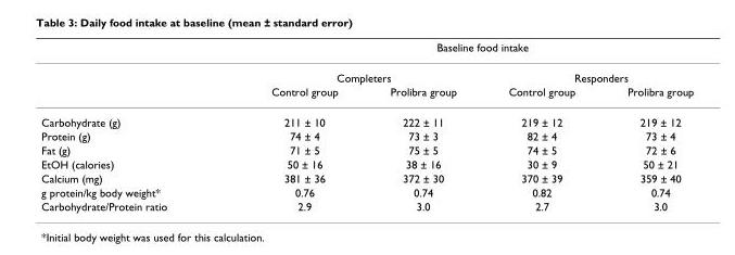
<table><thead><tr><td rowspan="3"></td><td colspan="4">Baseline food intake</td></tr><tr><td colspan="2">Completers</td><td colspan="2">Responders</td></tr><tr><td>Control group</td><td>Prolibra group</td><td>Control group</td><td>Prolibra group</td></tr></thead><tbody><tr><td>Carbohydrate (g)</td><td>211 ± 10</td><td>222 ± 11</td><td>219 ± 12</td><td>219 ± 12</td></tr><tr><td>Protein (g)</td><td>74 ± 4</td><td>73 ± 3</td><td>82 ± 4</td><td>73 ± 4</td></tr><tr><td>Fat (g)</td><td>71 ± 5</td><td>75 ± 5</td><td>74 ± 5</td><td>72 ± 6</td></tr><tr><td>EtOH (calories)</td><td>50 ± 16</td><td>38 ± 16</td><td>30 ± 9</td><td>50 ± 21</td></tr><tr><td>Calcium (mg)</td><td>381 ± 36</td><td>372 ± 30</td><td>370 ± 39</td><td>359 ± 40</td></tr><tr><td>g protein/kg body weight*</td><td>0.76</td><td>0.74</td><td>0.82</td><td>0.74</td></tr><tr><td>Carbohydrate/Protein ratio</td><td>2.9</td><td>3.0</td><td>2.7</td><td>3.0</td></tr></tbody></table>